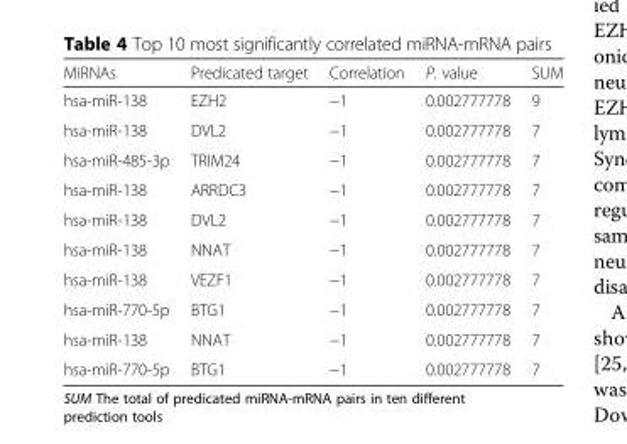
<table><thead><tr><td>MiRNAs</td><td>Predicated target</td><td>Correlation</td><td>P. value</td><td>SUM</td></tr></thead><tbody><tr><td>hsa-miR-138</td><td>EZH2</td><td>−1</td><td>0.002777778</td><td>9</td></tr><tr><td>hsa-miR-138</td><td>DVL2</td><td>−1</td><td>0.002777778</td><td>7</td></tr><tr><td>hsa-miR-485-3p</td><td>TRIM24</td><td>−1</td><td>0.002777778</td><td>7</td></tr><tr><td>hsa-miR-138</td><td>ARRDC3</td><td>−1</td><td>0.002777778</td><td>7</td></tr><tr><td>hsa-miR-138</td><td>DVL2</td><td>−1</td><td>0.002777778</td><td>7</td></tr><tr><td>hsa-miR-138</td><td>NNAT</td><td>−1</td><td>0.002777778</td><td>7</td></tr><tr><td>hsa-miR-138</td><td>VEZF1</td><td>−1</td><td>0.002777778</td><td>7</td></tr><tr><td>hsa-miR-770-5p</td><td>BTG1</td><td>−1</td><td>0.002777778</td><td>7</td></tr><tr><td>hsa-miR-138</td><td>NNAT</td><td>−1</td><td>0.002777778</td><td>7</td></tr><tr><td>hsa-miR-770-5p</td><td>BTG1</td><td>−1</td><td>0.002777778</td><td>7</td></tr></tbody></table>